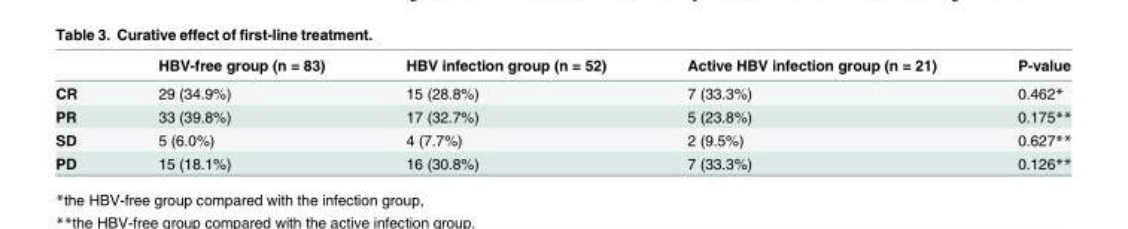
<table><thead><tr><td></td><td>HBV-free group (n = 83)</td><td>HBV infection group (n = 52)</td><td>Active HBV infection group (n = 21)</td><td>P-value</td></tr></thead><tbody><tr><td>CR</td><td>29 (34.9%)</td><td>15 (28.8%)</td><td>7 (33.3%)</td><td>0.462*</td></tr><tr><td>PR</td><td>33 (39.8%)</td><td>17 (32.7%)</td><td>5 (23.8%)</td><td>0.175**</td></tr><tr><td>SD</td><td>5 (6.0%)</td><td>4 (7.7%)</td><td>2 (9.5%)</td><td>0.627**</td></tr><tr><td>PD</td><td>15 (18.1%)</td><td>16 (30.8%)</td><td>7 (33.3%)</td><td>0.126**</td></tr></tbody></table>